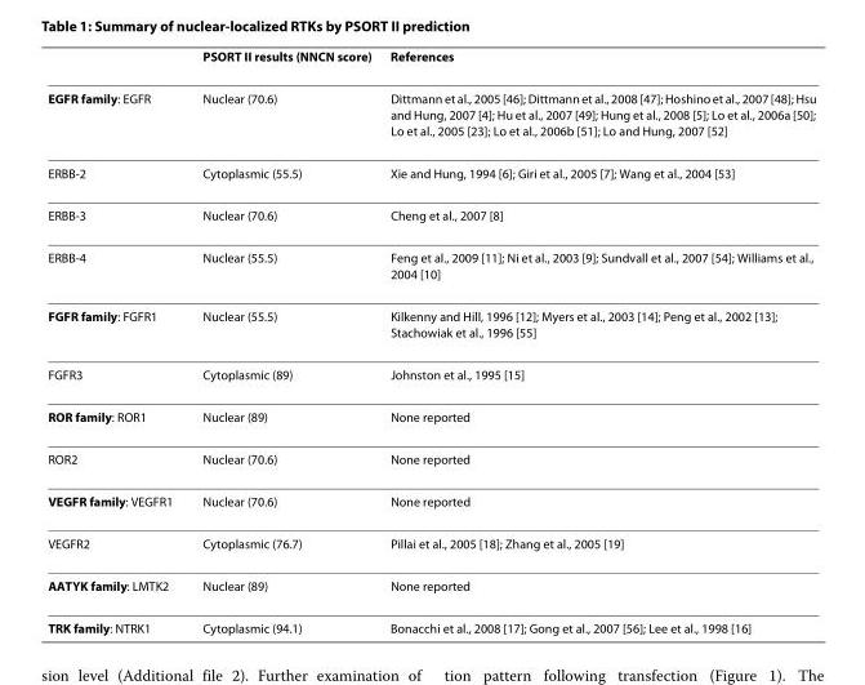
<table><thead><tr><td></td><td>PSORT II results (NNCN score)</td><td>References</td></tr></thead><tbody><tr><td>EGFR family: EGFR</td><td>Nuclear (70.6)</td><td>Dittmann et al., 2005 [46]; Dittmann et al., 2008 [47]; Hoshino et al., 2007 [48]; Hsu and Hung, 2007 [4]; Hu et al., 2007 [49]; Hung et al., 2008 [5]; Lo et al., 2006a [50]; Lo et al., 2005 [23]; Lo et al., 2006b [51]; Lo and Hung, 2007 [52]</td></tr><tr><td>ERBB-2</td><td>Cytoplasmic (55.5)</td><td>Xie and Hung, 1994 [6]; Giri et al., 2005 [7]; Wang et al., 2004 [53]</td></tr><tr><td>ERBB-3</td><td>Nuclear (70.6)</td><td>Cheng et al., 2007 [8]</td></tr><tr><td>ERBB-4</td><td>Nuclear (55.5)</td><td>Feng et al., 2009 [11]; Ni et al., 2003 [9]; Sundvall et al., 2007 [54]; Williams et al., 2004 [10]</td></tr><tr><td>FGFR family: FGFR1</td><td>Nuclear (55.5)</td><td>Kilkenny and Hill, 1996 [12]; Myers et al., 2003 [14]; Peng et al., 2002 [13]; Stachowiak et al., 1996 [55]</td></tr><tr><td>FGFR3</td><td>Cytoplasmic (89)</td><td>Johnston et al., 1995 [15]</td></tr><tr><td>ROR family: ROR1</td><td>Nuclear (89)</td><td>None reported</td></tr><tr><td>ROR2</td><td>Nuclear (70.6)</td><td>None reported</td></tr><tr><td>VEGFR family: VEGFR1</td><td>Nuclear (70.6)</td><td>None reported</td></tr><tr><td>VEGFR2</td><td>Cytoplasmic (76.7)</td><td>Pillai et al., 2005 [18]; Zhang et al., 2005 [19]</td></tr><tr><td>AATYK family: LMTK2</td><td>Nuclear (89)</td><td>None reported</td></tr><tr><td>TRK family: NTRK1</td><td>Cytoplasmic (94.1)</td><td>Bonacchi et al., 2008 [17]; Gong et al., 2007 [56]; Lee et al., 1998 [16]</td></tr></tbody></table>